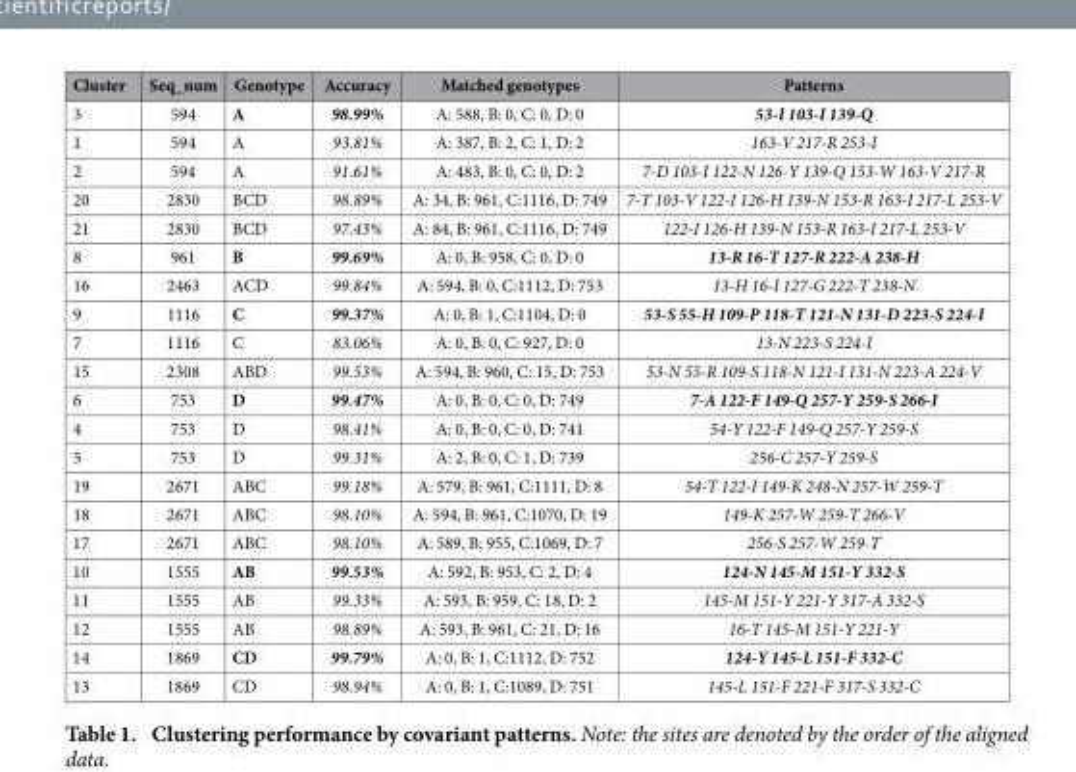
<table><thead><tr><td>Cluster</td><td>Seq_num</td><td>Genotype</td><td>Accuracy</td><td>Matched genotypes</td><td>Patterns</td></tr></thead><tbody><tr><td>3</td><td>594</td><td>A</td><td>98.99%</td><td>A: 588, B: 0, C: 0, D: 0</td><td>53-I 103-I 139-Q</td></tr><tr><td>1</td><td>594</td><td>A</td><td>93.81%</td><td>A: 387, B: 2, C: 1, D: 2</td><td>163-V 217-R 253-I</td></tr><tr><td>2</td><td>594</td><td>A</td><td>91.61%</td><td>A: 483, B: 0, C: 0, D: 2</td><td>7-D 103-I 122-N 126-Y 139-Q 153-W 163-V 217-R</td></tr><tr><td>20</td><td>2830</td><td>BCD</td><td>98.89%</td><td>A: 34, B: 961, C:1116, D: 749</td><td>7-T 103-V 122-I 126-H 139-N 153-R 163-I 217-L 253-V</td></tr><tr><td>21</td><td>2830</td><td>BCD</td><td>97.43%</td><td>A: 84, B: 961, C:1116, D: 749</td><td>122-I 126-H 139-N 153-R 163-I 217-L 253-V</td></tr><tr><td>8</td><td>961</td><td>B</td><td>99.69%</td><td>A: 0, B: 958, C: 0, D: 0</td><td>13-R 16-T 127-R 222-A 238-H</td></tr><tr><td>16</td><td>2463</td><td>ACD</td><td>99.84%</td><td>A: 594, B: 0, C:1112, D: 753</td><td>13-H 16-I 127-G 222-T 238-N</td></tr><tr><td>9</td><td>1116</td><td>C</td><td>99.37%</td><td>A: 0, B: 1, C:1104, D: 0</td><td>53-S 55-H 109-P 118-T 121-N 131-D 223-S 224-I</td></tr><tr><td>7</td><td>1116</td><td>C</td><td>83.06%</td><td>A: 0, B: 0, C: 927, D: 0</td><td>13-N 223-S 224-I</td></tr><tr><td>15</td><td>2308</td><td>ABD</td><td>99.53%</td><td>A: 594, B: 960, C: 15, D: 753</td><td>53-N 55-R 109-S 118-N 121-I 131-N 223-A 224-V</td></tr><tr><td>6</td><td>753</td><td>D</td><td>99.47%</td><td>A: 0, B: 0, C: 0, D: 749</td><td>7-A 122-F 149-Q 257-Y 259-S 266-I</td></tr><tr><td>4</td><td>753</td><td>D</td><td>98.41%</td><td>A: 0, B: 0, C: 0, D: 741</td><td>54-Y 122-F 149-Q 257-Y 259-S</td></tr><tr><td>5</td><td>753</td><td>D</td><td>99.31%</td><td>A: 2, B: 0, C: 1, D: 739</td><td>256-C 257-Y 259-S</td></tr><tr><td>19</td><td>2671</td><td>ABC</td><td>99.18%</td><td>A: 579, B: 961, C:1111, D: 8</td><td>54-T 122-I 149-K 248-N 257-W 259-T</td></tr><tr><td>18</td><td>2671</td><td>ABC</td><td>98.10%</td><td>A: 594, B: 961, C:1070, D: 19</td><td>149-K 257-W 259-T 266-V</td></tr><tr><td>17</td><td>2671</td><td>ABC</td><td>98.10%</td><td>A: 589, B: 955, C:1069, D: 7</td><td>256-S 257-W 259-T</td></tr><tr><td>10</td><td>1555</td><td>AB</td><td>99.53%</td><td>A: 592, B: 953, C: 2, D: 4</td><td>124-N 145-M 151-Y 332-S</td></tr><tr><td>11</td><td>1555</td><td>AB</td><td>99.33%</td><td>A: 593, B: 959, C: 18, D: 2</td><td>145-M 151-Y 221-Y 317-A 332-S</td></tr><tr><td>12</td><td>1555</td><td>AB</td><td>98.89%</td><td>A: 593, B: 961, C: 21, D: 16</td><td>16-T 145-M 151-Y 221-Y</td></tr><tr><td>14</td><td>1869</td><td>CD</td><td>99.79%</td><td>A: 0, B: 1, C:1112, D: 752</td><td>124-Y 145-L 151-F 332-C</td></tr><tr><td>13</td><td>1869</td><td>CD</td><td>98.94%</td><td>A: 0, B: 1, C:1089, D: 751</td><td>145-L 151-F 221-F 317-S 332-C</td></tr></tbody></table>